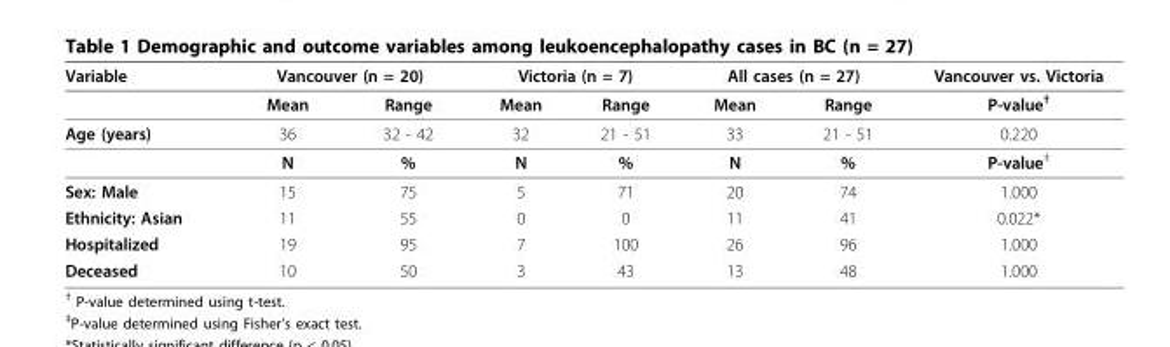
<table><thead><tr><td rowspan="2">Variable</td><td colspan="2">Vancouver (n = 20)</td><td colspan="2">Victoria (n = 7)</td><td colspan="2">All cases (n = 27)</td><td rowspan="2">Vancouver vs. Victoria P-value<sup>†</sup></td></tr><tr><td>Mean</td><td>Range</td><td>Mean</td><td>Range</td><td>Mean</td><td>Range</td></tr></thead><tbody><tr><td rowspan="2">Age (years)</td><td>36</td><td>32 - 42</td><td>32</td><td>21 - 51</td><td>33</td><td>21 - 51</td><td>0.220</td></tr><tr><td>N</td><td>%</td><td>N</td><td>%</td><td>N</td><td>%</td><td>P-value<sup>‡</sup></td></tr><tr><td>Sex: Male</td><td>15</td><td>75</td><td>5</td><td>71</td><td>20</td><td>74</td><td>1.000</td></tr><tr><td>Ethnicity: Asian</td><td>11</td><td>55</td><td>0</td><td>0</td><td>11</td><td>41</td><td>0.022*</td></tr><tr><td>Hospitalized</td><td>19</td><td>95</td><td>7</td><td>100</td><td>26</td><td>96</td><td>1.000</td></tr><tr><td>Deceased</td><td>10</td><td>50</td><td>3</td><td>43</td><td>13</td><td>48</td><td>1.000</td></tr></tbody></table>